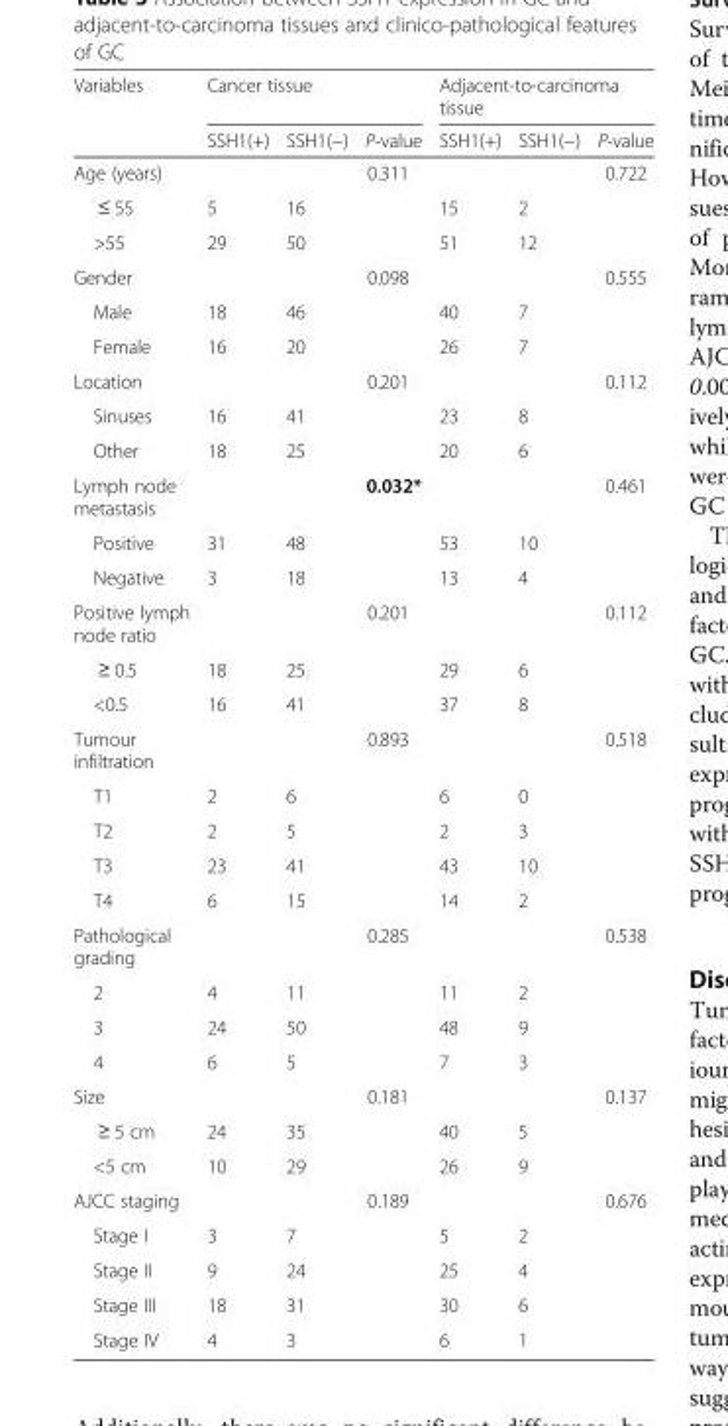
<table><thead><tr><td rowspan="2">Variables</td><td colspan="3">Cancer tissue</td><td colspan="3">Adjacent-to-carcinoma tissue</td></tr><tr><td>SSH1(+)</td><td>SSH1(−)</td><td>P-value</td><td>SSH1(+)</td><td>SSH1(−)</td><td>P-value</td></tr></thead><tbody><tr><td>Age (years)</td><td></td><td></td><td>0.311</td><td></td><td></td><td>0.722</td></tr><tr><td>≤ 55</td><td>5</td><td>16</td><td></td><td>15</td><td>2</td><td></td></tr><tr><td>&gt;55</td><td>29</td><td>50</td><td></td><td>51</td><td>12</td><td></td></tr><tr><td>Gender</td><td></td><td></td><td>0.098</td><td></td><td></td><td>0.555</td></tr><tr><td>Male</td><td>18</td><td>46</td><td></td><td>40</td><td>7</td><td></td></tr><tr><td>Female</td><td>16</td><td>20</td><td></td><td>26</td><td>7</td><td></td></tr><tr><td>Location</td><td></td><td></td><td>0.201</td><td></td><td></td><td>0.112</td></tr><tr><td>Sinuses</td><td>16</td><td>41</td><td></td><td>23</td><td>8</td><td></td></tr><tr><td>Other</td><td>18</td><td>25</td><td></td><td>20</td><td>6</td><td></td></tr><tr><td>Lymph node metastasis</td><td></td><td></td><td>0.032*</td><td></td><td></td><td>0.461</td></tr><tr><td>Positive</td><td>31</td><td>48</td><td></td><td>53</td><td>10</td><td></td></tr><tr><td>Negative</td><td>3</td><td>18</td><td></td><td>13</td><td>4</td><td></td></tr><tr><td>Positive lymph node ratio</td><td></td><td></td><td>0.201</td><td></td><td></td><td>0.112</td></tr><tr><td>≥ 0.5</td><td>18</td><td>25</td><td></td><td>29</td><td>6</td><td></td></tr><tr><td>&lt;0.5</td><td>16</td><td>41</td><td></td><td>37</td><td>8</td><td></td></tr><tr><td>Tumour infiltration</td><td></td><td></td><td>0.893</td><td></td><td></td><td>0.518</td></tr><tr><td>T1</td><td>2</td><td>6</td><td></td><td>6</td><td>0</td><td></td></tr><tr><td>T2</td><td>2</td><td>5</td><td></td><td>2</td><td>3</td><td></td></tr><tr><td>T3</td><td>23</td><td>41</td><td></td><td>43</td><td>10</td><td></td></tr><tr><td>T4</td><td>6</td><td>15</td><td></td><td>14</td><td>2</td><td></td></tr><tr><td>Pathological grading</td><td></td><td></td><td>0.285</td><td></td><td></td><td>0.538</td></tr><tr><td>2</td><td>4</td><td>11</td><td></td><td>11</td><td>2</td><td></td></tr><tr><td>3</td><td>24</td><td>50</td><td></td><td>48</td><td>9</td><td></td></tr><tr><td>4</td><td>6</td><td>5</td><td></td><td>7</td><td>3</td><td></td></tr><tr><td>Size</td><td></td><td></td><td>0.181</td><td></td><td></td><td>0.137</td></tr><tr><td>≥ 5 cm</td><td>24</td><td>35</td><td></td><td>40</td><td>5</td><td></td></tr><tr><td>&lt;5 cm</td><td>10</td><td>29</td><td></td><td>26</td><td>9</td><td></td></tr><tr><td>AJCC staging</td><td></td><td></td><td>0.189</td><td></td><td></td><td>0.676</td></tr><tr><td>Stage I</td><td>3</td><td>7</td><td></td><td>5</td><td>2</td><td></td></tr><tr><td>Stage II</td><td>9</td><td>24</td><td></td><td>25</td><td>4</td><td></td></tr><tr><td>Stage III</td><td>18</td><td>31</td><td></td><td>30</td><td>6</td><td></td></tr><tr><td>Stage IV</td><td>4</td><td>3</td><td></td><td>6</td><td>1</td><td></td></tr></tbody></table>